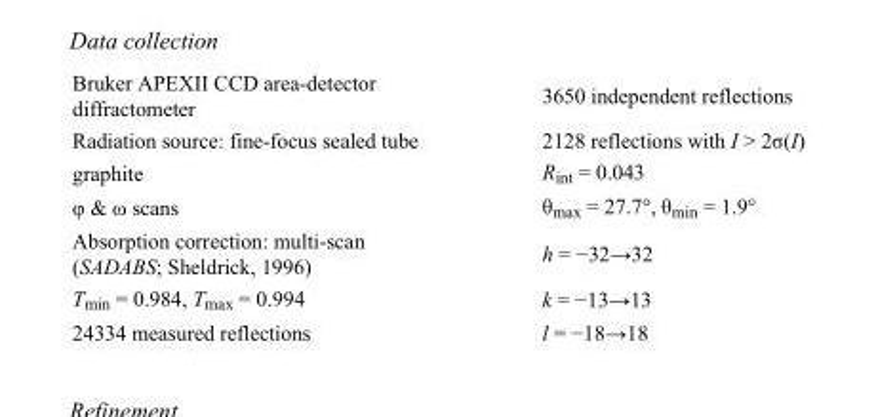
<table><tbody><tr><td>Bruker APEXII CCD area-detector diffractometer</td><td>3650 independent reflections</td></tr><tr><td>Radiation source: fine-focus sealed tube</td><td>2128 reflections with I &gt; 2σ(I)</td></tr><tr><td>graphite</td><td>R<sub>int</sub> = 0.043</td></tr><tr><td>φ &amp; ω scans</td><td>θ<sub>max</sub> = 27.7°, θ<sub>min</sub> = 1.9°</td></tr><tr><td>Absorption correction: multi-scan (SADABS; Sheldrick, 1996)</td><td>h = −32→32</td></tr><tr><td>T<sub>min</sub> = 0.984, T<sub>max</sub> = 0.994</td><td>k = −13→13</td></tr><tr><td>24334 measured reflections</td><td>l = −18→18</td></tr></tbody></table>